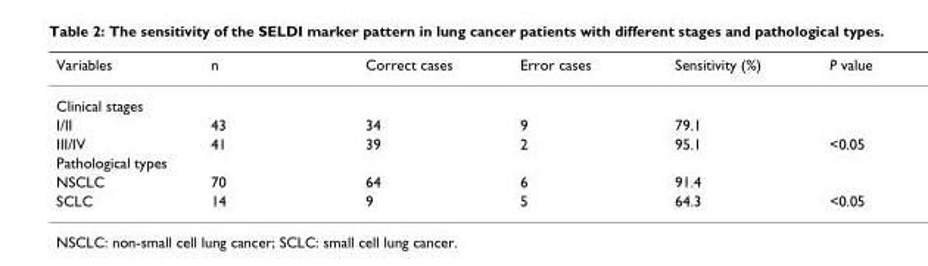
<table><thead><tr><td>Variables</td><td>n</td><td>Correct cases</td><td>Error cases</td><td>Sensitivity (%)</td><td>P value</td></tr></thead><tbody><tr><td colspan="6">Clinical stages</td></tr><tr><td>I/II</td><td>43</td><td>34</td><td>9</td><td>79.1</td><td></td></tr><tr><td>III/IV</td><td>41</td><td>39</td><td>2</td><td>95.1</td><td>&lt;0.05</td></tr><tr><td colspan="6">Pathological types</td></tr><tr><td>NSCLC</td><td>70</td><td>64</td><td>6</td><td>91.4</td><td></td></tr><tr><td>SCLC</td><td>14</td><td>9</td><td>5</td><td>64.3</td><td>&lt;0.05</td></tr></tbody></table>